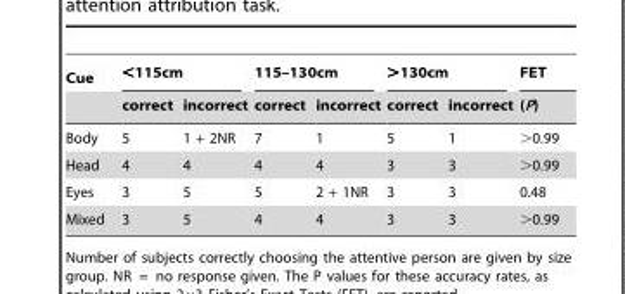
<table><thead><tr><td rowspan="2">Cue</td><td colspan="2">&lt;115cm</td><td colspan="2">115–130cm</td><td colspan="2">&gt;130cm</td><td rowspan="2">FET (P)</td></tr><tr><td>correct</td><td>incorrect</td><td>correct</td><td>incorrect</td><td>correct</td><td>incorrect</td></tr></thead><tbody><tr><td>Body</td><td>5</td><td>1 + 2NR</td><td>7</td><td>1</td><td>5</td><td>1</td><td>&gt;0.99</td></tr><tr><td>Head</td><td>4</td><td>4</td><td>4</td><td>4</td><td>3</td><td>3</td><td>&gt;0.99</td></tr><tr><td>Eyes</td><td>3</td><td>5</td><td>5</td><td>2 + 1NR</td><td>3</td><td>3</td><td>0.48</td></tr><tr><td>Mixed</td><td>3</td><td>5</td><td>4</td><td>4</td><td>3</td><td>3</td><td>&gt;0.99</td></tr></tbody></table>